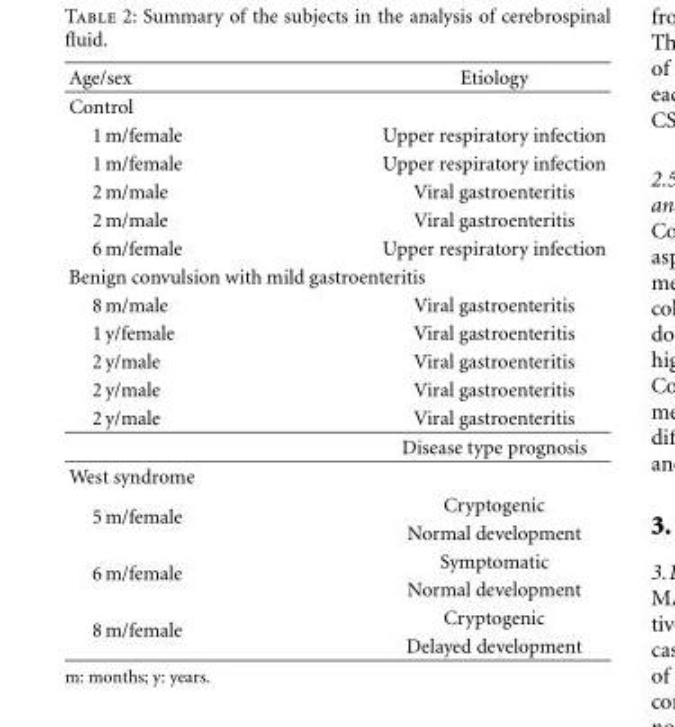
<table><thead><tr><td>Age/sex</td><td>Etiology</td></tr></thead><tbody><tr><td colspan="2">Control</td></tr><tr><td>1 m/female</td><td>Upper respiratory infection</td></tr><tr><td>1 m/female</td><td>Upper respiratory infection</td></tr><tr><td>2 m/male</td><td>Viral gastroenteritis</td></tr><tr><td>2 m/male</td><td>Viral gastroenteritis</td></tr><tr><td>6 m/female</td><td>Upper respiratory infection</td></tr><tr><td colspan="2">Benign convulsion with mild gastroenteritis</td></tr><tr><td>8 m/male</td><td>Viral gastroenteritis</td></tr><tr><td>1 y/female</td><td>Viral gastroenteritis</td></tr><tr><td>2 y/male</td><td>Viral gastroenteritis</td></tr><tr><td>2 y/male</td><td>Viral gastroenteritis</td></tr><tr><td rowspan="2">2 y/male</td><td>Viral gastroenteritis</td></tr><tr><td>Disease type prognosis</td></tr><tr><td colspan="2">West syndrome</td></tr><tr><td rowspan="2">5 m/female</td><td>Cryptogenic</td></tr><tr><td>Normal development</td></tr><tr><td rowspan="2">6 m/female</td><td>Symptomatic</td></tr><tr><td>Normal development</td></tr><tr><td rowspan="2">8 m/female</td><td>Cryptogenic</td></tr><tr><td>Delayed development</td></tr></tbody></table>